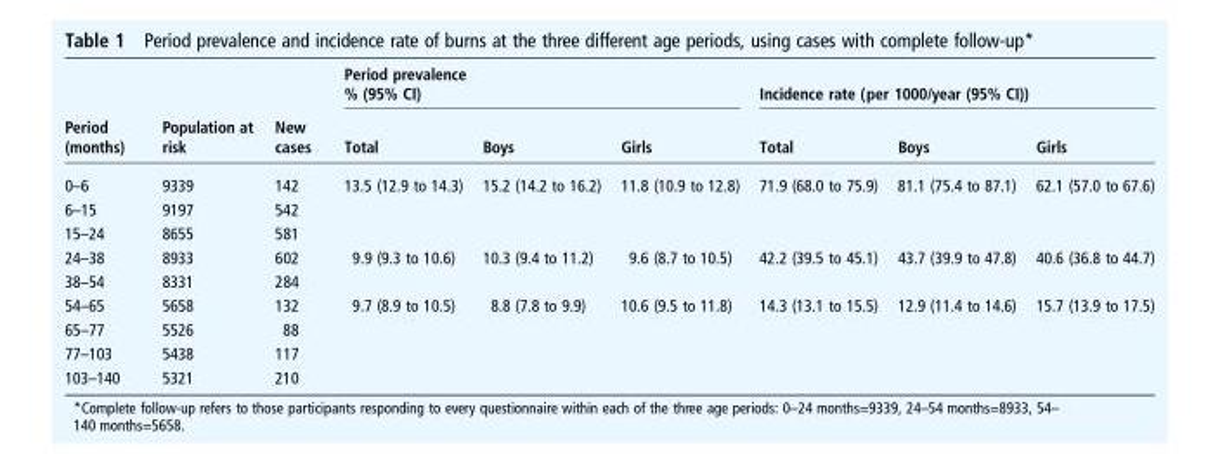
<table><thead><tr><td rowspan="2">Period (months)</td><td rowspan="2">Population at risk</td><td rowspan="2">New cases</td><td colspan="3">Period prevalence % (95% CI)</td><td colspan="3">Incidence rate (per 1000/year (95% CI))</td></tr><tr><td>Total</td><td>Boys</td><td>Girls</td><td>Total</td><td>Boys</td><td>Girls</td></tr></thead><tbody><tr><td>0–6</td><td>9339</td><td>142</td><td rowspan="3">13.5 (12.9 to 14.3)</td><td rowspan="3">15.2 (14.2 to 16.2)</td><td rowspan="3">11.8 (10.9 to 12.8)</td><td rowspan="3">71.9 (68.0 to 75.9)</td><td rowspan="3">81.1 (75.4 to 87.1)</td><td rowspan="3">62.1 (57.0 to 67.6)</td></tr><tr><td>6–15</td><td>9197</td><td>542</td></tr><tr><td>15–24</td><td>8655</td><td>581</td></tr><tr><td>24–38</td><td>8933</td><td>602</td><td rowspan="2">9.9 (9.3 to 10.6)</td><td rowspan="2">10.3 (9.4 to 11.2)</td><td rowspan="2">9.6 (8.7 to 10.5)</td><td rowspan="2">42.2 (39.5 to 45.1)</td><td rowspan="2">43.7 (39.9 to 47.8)</td><td rowspan="2">40.6 (36.8 to 44.7)</td></tr><tr><td>38–54</td><td>8331</td><td>284</td></tr><tr><td>54–65</td><td>5658</td><td>132</td><td rowspan="4">9.7 (8.9 to 10.5)</td><td rowspan="4">8.8 (7.8 to 9.9)</td><td rowspan="4">10.6 (9.5 to 11.8)</td><td rowspan="4">14.3 (13.1 to 15.5)</td><td rowspan="4">12.9 (11.4 to 14.6)</td><td rowspan="4">15.7 (13.9 to 17.5)</td></tr><tr><td>65–77</td><td>5526</td><td>88</td></tr><tr><td>77–103</td><td>5438</td><td>117</td></tr><tr><td>103–140</td><td>5321</td><td>210</td></tr></tbody></table>